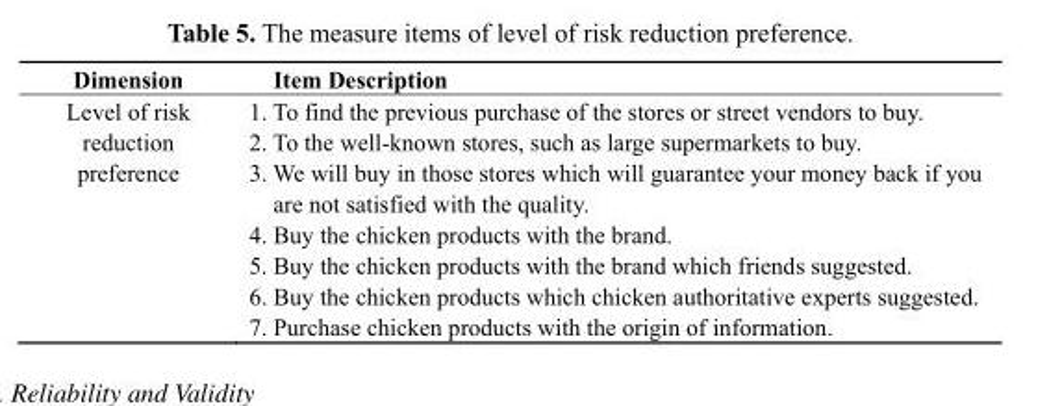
<table><thead><tr><td>Dimension</td><td></td><td>Item Description</td></tr></thead><tbody><tr><td rowspan="7">Level of risk reduction preference</td><td>1.</td><td>To find the previous purchase of the stores or street vendors to buy.</td></tr><tr><td>2.</td><td>To the well-known stores, such as large supermarkets to buy.</td></tr><tr><td>3.</td><td>We will buy in those stores which will guarantee your money back if you are not satisfied with the quality.</td></tr><tr><td>4.</td><td>Buy the chicken products with the brand.</td></tr><tr><td>5.</td><td>Buy the chicken products with the brand which friends suggested.</td></tr><tr><td>6.</td><td>Buy the chicken products which chicken authoritative experts suggested.</td></tr><tr><td>7.</td><td>Purchase chicken products with the origin of information.</td></tr></tbody></table>